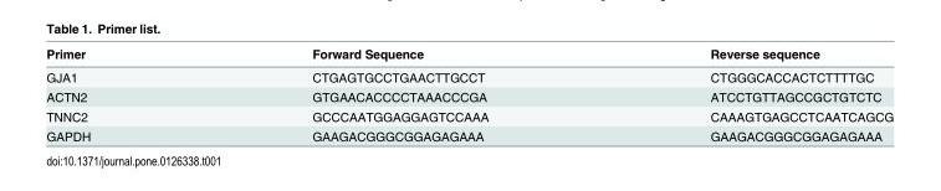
<table><thead><tr><td>Primer</td><td>Forward Sequence</td><td>Reverse sequence</td></tr></thead><tbody><tr><td>GJA1</td><td>CTGAGTGCCTGAACTTGCCT</td><td>CTGGGCACCACTCTTTTGC</td></tr><tr><td>ACTN2</td><td>GTGAACACCCCTAAACCCGA</td><td>ATCCTGTTAGCCGCTGTCTC</td></tr><tr><td>TNNC2</td><td>GCCCAATGGAGGAGTCCAAA</td><td>CAAAGTGAGCCTCAATCAGCG</td></tr><tr><td>GAPDH</td><td>GAAGACGGGCGGAGAGAAA</td><td>GAAGACGGGCGGAGAGAAA</td></tr></tbody></table>